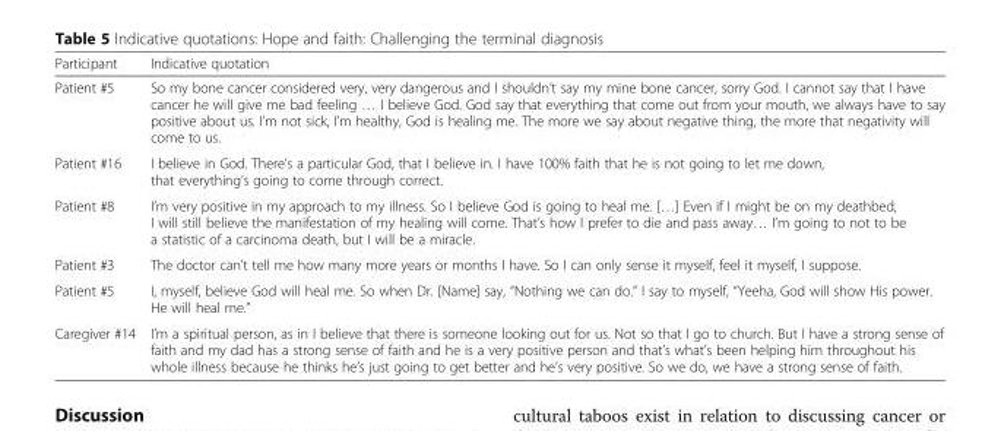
<table><thead><tr><td>Participant</td><td>Indicative quotation</td></tr></thead><tbody><tr><td>Patient #5</td><td>So my bone cancer considered very, very dangerous and I shouldn’t say my mine bone cancer, sorry God. I cannot say that I have cancer he will give me bad feeling … I believe God. God say that everything that come out from your mouth, we always have to say positive about us. I’m not sick, I’m healthy, God is healing me. The more we say about negative thing, the more that negativity will come to us.</td></tr><tr><td>Patient #16</td><td>I believe in God. There’s a particular God, that I believe in. I have 100% faith that he is not going to let me down, that everything’s going to come through correct.</td></tr><tr><td>Patient #8</td><td>I’m very positive in my approach to my illness. So I believe God is going to heal me. […] Even if I might be on my deathbed, I will still believe the manifestation of my healing will come. That’s how I prefer to die and pass away… I’m going to not to be a statistic of a carcinoma death, but I will be a miracle.</td></tr><tr><td>Patient #3</td><td>The doctor can’t tell me how many more years or months I have. So I can only sense it myself, feel it myself, I suppose.</td></tr><tr><td>Patient #5</td><td>I, myself, believe God will heal me. So when Dr. [Name] say, “Nothing we can do.” I say to myself, “Yeeha, God will show His power. He will heal me.”</td></tr><tr><td>Caregiver #14</td><td>I’m a spiritual person, as in I believe that there is someone looking out for us. Not so that I go to church. But I have a strong sense of faith and my dad has a strong sense of faith and he is a very positive person and that’s what’s been helping him throughout his whole illness because he thinks he’s just going to get better and he’s very positive. So we do, we have a strong sense of faith.</td></tr></tbody></table>